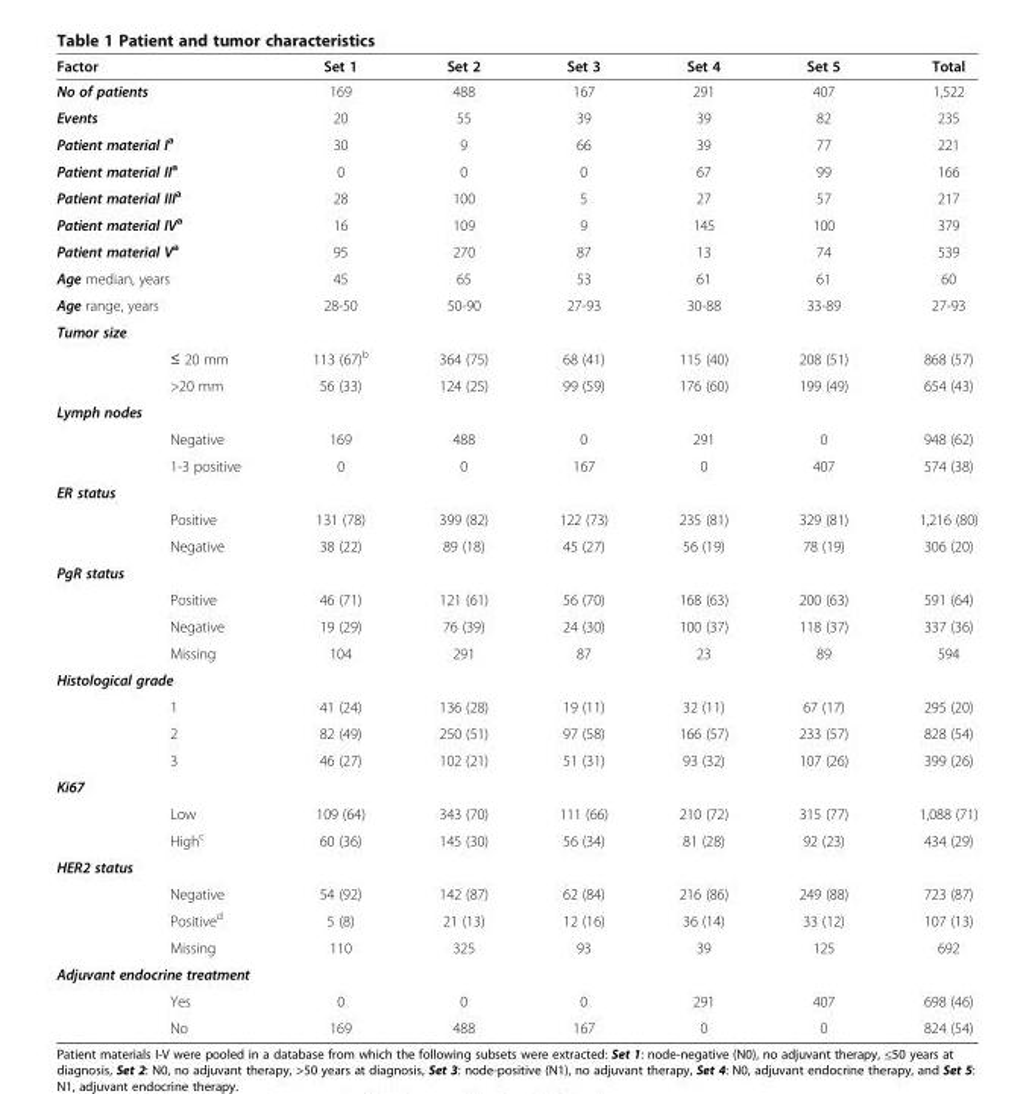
<table><thead><tr><td>Factor</td><td></td><td>Set 1</td><td>Set 2</td><td>Set 3</td><td>Set 4</td><td>Set 5</td><td>Total</td></tr></thead><tbody><tr><td colspan="2">No of patients</td><td>169</td><td>488</td><td>167</td><td>291</td><td>407</td><td>1,522</td></tr><tr><td colspan="2">Events</td><td>20</td><td>55</td><td>39</td><td>39</td><td>82</td><td>235</td></tr><tr><td colspan="2">Patient material I<sup>a</sup></td><td>30</td><td>9</td><td>66</td><td>39</td><td>77</td><td>221</td></tr><tr><td colspan="2">Patient material II<sup>a</sup></td><td>0</td><td>0</td><td>0</td><td>67</td><td>99</td><td>166</td></tr><tr><td colspan="2">Patient material III<sup>a</sup></td><td>28</td><td>100</td><td>5</td><td>27</td><td>57</td><td>217</td></tr><tr><td colspan="2">Patient material IV<sup>a</sup></td><td>16</td><td>109</td><td>9</td><td>145</td><td>100</td><td>379</td></tr><tr><td colspan="2">Patient material V<sup>a</sup></td><td>95</td><td>270</td><td>87</td><td>13</td><td>74</td><td>539</td></tr><tr><td colspan="2">Age median, years</td><td>45</td><td>65</td><td>53</td><td>61</td><td>61</td><td>60</td></tr><tr><td colspan="2">Age range, years</td><td>28-50</td><td>50-90</td><td>27-93</td><td>30-88</td><td>33-89</td><td>27-93</td></tr><tr><td colspan="8">Tumor size</td></tr><tr><td></td><td>≤ 20 mm</td><td>113 (67)<sup>b</sup></td><td>364 (75)</td><td>68 (41)</td><td>115 (40)</td><td>208 (51)</td><td>868 (57)</td></tr><tr><td></td><td>&gt;20 mm</td><td>56 (33)</td><td>124 (25)</td><td>99 (59)</td><td>176 (60)</td><td>199 (49)</td><td>654 (43)</td></tr><tr><td colspan="8">Lymph nodes</td></tr><tr><td rowspan="2"></td><td>Negative</td><td>169</td><td>488</td><td>0</td><td>291</td><td>0</td><td>948 (62)</td></tr><tr><td>1-3 positive</td><td>0</td><td>0</td><td>167</td><td>0</td><td>407</td><td>574 (38)</td></tr><tr><td colspan="8">ER status</td></tr><tr><td></td><td>Positive</td><td>131 (78)</td><td>399 (82)</td><td>122 (73)</td><td>235 (81)</td><td>329 (81)</td><td>1,216 (80)</td></tr><tr><td></td><td>Negative</td><td>38 (22)</td><td>89 (18)</td><td>45 (27)</td><td>56 (19)</td><td>78 (19)</td><td>306 (20)</td></tr><tr><td colspan="8">PgR status</td></tr><tr><td></td><td>Positive</td><td>46 (71)</td><td>121 (61)</td><td>56 (70)</td><td>168 (63)</td><td>200 (63)</td><td>591 (64)</td></tr><tr><td></td><td>Negative</td><td>19 (29)</td><td>76 (39)</td><td>24 (30)</td><td>100 (37)</td><td>118 (37)</td><td>337 (36)</td></tr><tr><td></td><td>Missing</td><td>104</td><td>291</td><td>87</td><td>23</td><td>89</td><td>594</td></tr><tr><td colspan="8">Histological grade</td></tr><tr><td></td><td>1</td><td>41 (24)</td><td>136 (28)</td><td>19 (11)</td><td>32 (11)</td><td>67 (17)</td><td>295 (20)</td></tr><tr><td></td><td>2</td><td>82 (49)</td><td>250 (51)</td><td>97 (58)</td><td>166 (57)</td><td>233 (57)</td><td>828 (54)</td></tr><tr><td></td><td>3</td><td>46 (27)</td><td>102 (21)</td><td>51 (31)</td><td>93 (32)</td><td>107 (26)</td><td>399 (26)</td></tr><tr><td colspan="8">Ki67</td></tr><tr><td></td><td>Low</td><td>109 (64)</td><td>343 (70)</td><td>111 (66)</td><td>210 (72)</td><td>315 (77)</td><td>1,088 (71)</td></tr><tr><td></td><td>High<sup>c</sup></td><td>60 (36)</td><td>145 (30)</td><td>56 (34)</td><td>81 (28)</td><td>92 (23)</td><td>434 (29)</td></tr><tr><td colspan="8">HER2 status</td></tr><tr><td></td><td>Negative</td><td>54 (92)</td><td>142 (87)</td><td>62 (84)</td><td>216 (86)</td><td>249 (88)</td><td>723 (87)</td></tr><tr><td></td><td>Positive<sup>d</sup></td><td>5 (8)</td><td>21 (13)</td><td>12 (16)</td><td>36 (14)</td><td>33 (12)</td><td>107 (13)</td></tr><tr><td></td><td>Missing</td><td>110</td><td>325</td><td>93</td><td>39</td><td>125</td><td>692</td></tr><tr><td colspan="8">Adjuvant endocrine treatment</td></tr><tr><td></td><td>Yes</td><td>0</td><td>0</td><td>0</td><td>291</td><td>407</td><td>698 (46)</td></tr><tr><td></td><td>No</td><td>169</td><td>488</td><td>167</td><td>0</td><td>0</td><td>824 (54)</td></tr></tbody></table>